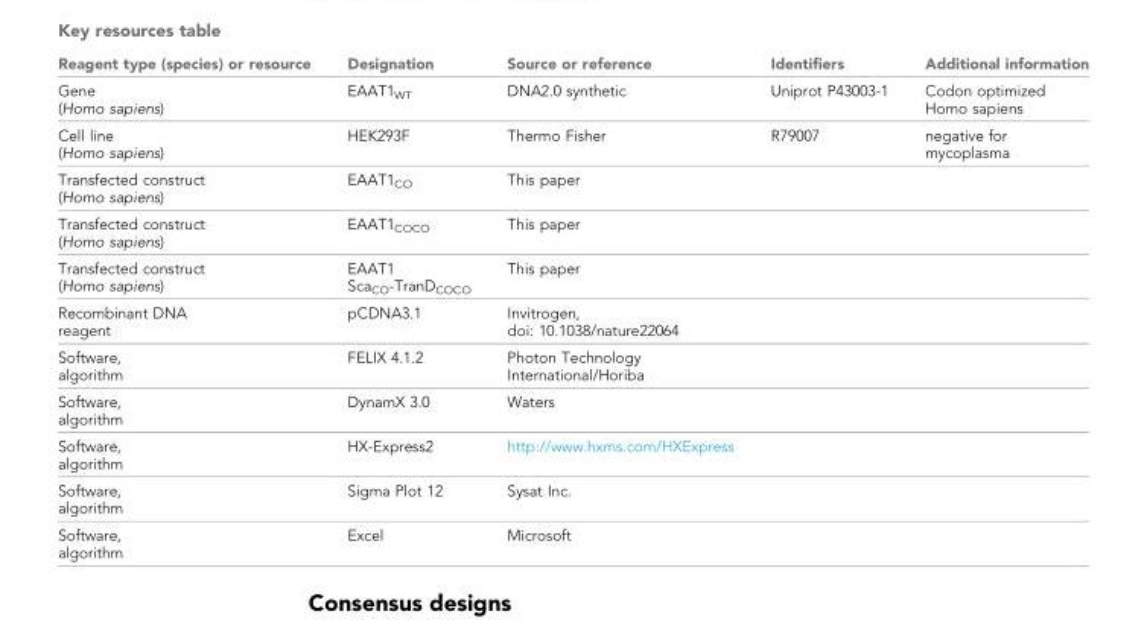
<table><thead><tr><td>Reagent type (species) or resource</td><td>Designation</td><td>Source or reference</td><td>Identifiers</td><td>Additional information</td></tr></thead><tbody><tr><td>Gene (Homo sapiens)</td><td>EAAT1<sub>WT</sub></td><td>DNA2.0 synthetic</td><td>Uniprot P43003-1</td><td>Codon optimized Homo sapiens</td></tr><tr><td>Cell line (Homo sapiens)</td><td>HEK293F</td><td>Thermo Fisher</td><td>R79007</td><td>negative for mycoplasma</td></tr><tr><td>Transfected construct (Homo sapiens)</td><td>EAAT1<sub>CO</sub></td><td>This paper</td><td></td><td></td></tr><tr><td>Transfected construct (Homo sapiens)</td><td>EAAT1<sub>COCO</sub></td><td>This paper</td><td></td><td></td></tr><tr><td>Transfected construct (Homo sapiens)</td><td>EAAT1 Sca<sub>CO</sub>-TranD<sub>COCO</sub></td><td>This paper</td><td></td><td></td></tr><tr><td>Recombinant DNA reagent</td><td>pCDNA3.1</td><td>Invitrogen, doi: 10.1038/nature22064</td><td></td><td></td></tr><tr><td>Software, algorithm</td><td>FELIX 4.1.2</td><td>Photon Technology International/Horiba</td><td></td><td></td></tr><tr><td>Software, algorithm</td><td>DynamX 3.0</td><td>Waters</td><td></td><td></td></tr><tr><td>Software, algorithm</td><td>HX-Express2</td><td>http://www.hxms.com/HXExpress</td><td></td><td></td></tr><tr><td>Software, algorithm</td><td>Sigma Plot 12</td><td>Sysat Inc.</td><td></td><td></td></tr><tr><td>Software, algorithm</td><td>Excel</td><td>Microsoft</td><td></td><td></td></tr></tbody></table>